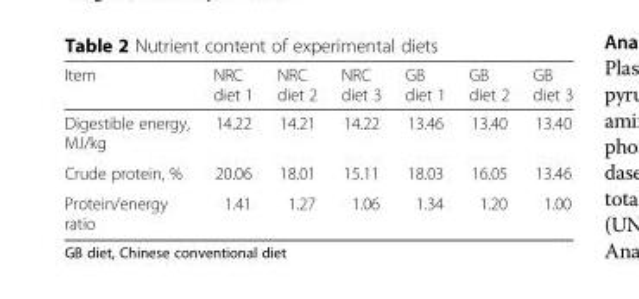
<table><thead><tr><td>Item</td><td>NRC diet 1</td><td>NRC diet 2</td><td>NRC diet 3</td><td>GB diet 1</td><td>GB diet 2</td><td>GB diet 3</td></tr></thead><tbody><tr><td>Digestible energy, MJ/kg</td><td>14.22</td><td>14.21</td><td>14.22</td><td>13.46</td><td>13.40</td><td>13.40</td></tr><tr><td>Crude protein, %</td><td>20.06</td><td>18.01</td><td>15.11</td><td>18.03</td><td>16.05</td><td>13.46</td></tr><tr><td>Protein/energy ratio</td><td>1.41</td><td>1.27</td><td>1.06</td><td>1.34</td><td>1.20</td><td>1.00</td></tr></tbody></table>